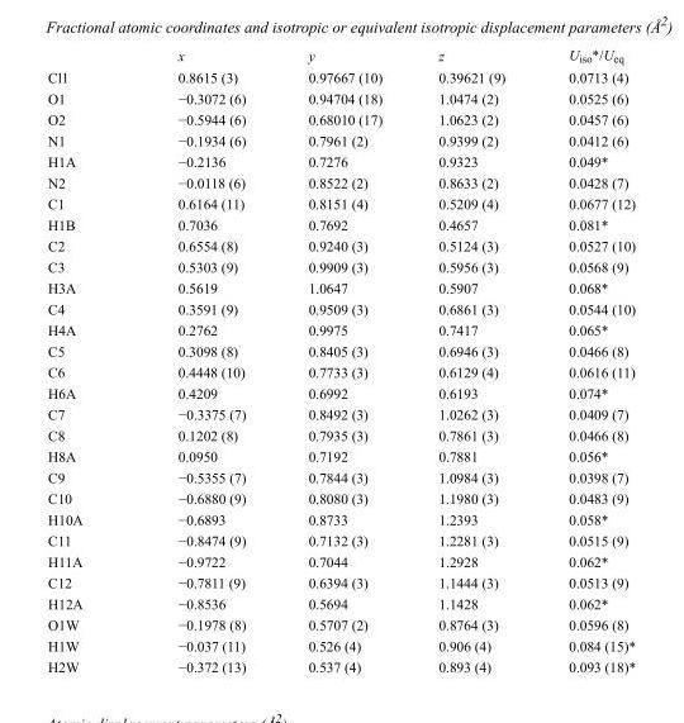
<table><thead><tr><td></td><td>x</td><td>y</td><td>z</td><td>U<sub>iso</sub>*/U<sub>eq</sub></td></tr></thead><tbody><tr><td>Cl1</td><td>0.8615 (3)</td><td>0.97667 (10)</td><td>0.39621 (9)</td><td>0.0713 (4)</td></tr><tr><td>O1</td><td>−0.3072 (6)</td><td>0.94704 (18)</td><td>1.0474 (2)</td><td>0.0525 (6)</td></tr><tr><td>O2</td><td>−0.5944 (6)</td><td>0.68010 (17)</td><td>1.0623 (2)</td><td>0.0457 (6)</td></tr><tr><td>N1</td><td>−0.1934 (6)</td><td>0.7961 (2)</td><td>0.9399 (2)</td><td>0.0412 (6)</td></tr><tr><td>H1A</td><td>−0.2136</td><td>0.7276</td><td>0.9323</td><td>0.049*</td></tr><tr><td>N2</td><td>−0.0118 (6)</td><td>0.8522 (2)</td><td>0.8633 (2)</td><td>0.0428 (7)</td></tr><tr><td>C1</td><td>0.6164 (11)</td><td>0.8151 (4)</td><td>0.5209 (4)</td><td>0.0677 (12)</td></tr><tr><td>H1B</td><td>0.7036</td><td>0.7692</td><td>0.4657</td><td>0.081*</td></tr><tr><td>C2</td><td>0.6554 (8)</td><td>0.9240 (3)</td><td>0.5124 (3)</td><td>0.0527 (10)</td></tr><tr><td>C3</td><td>0.5303 (9)</td><td>0.9909 (3)</td><td>0.5956 (3)</td><td>0.0568 (9)</td></tr><tr><td>H3A</td><td>0.5619</td><td>1.0647</td><td>0.5907</td><td>0.068*</td></tr><tr><td>C4</td><td>0.3591 (9)</td><td>0.9509 (3)</td><td>0.6861 (3)</td><td>0.0544 (10)</td></tr><tr><td>H4A</td><td>0.2762</td><td>0.9975</td><td>0.7417</td><td>0.065*</td></tr><tr><td>C5</td><td>0.3098 (8)</td><td>0.8405 (3)</td><td>0.6946 (3)</td><td>0.0466 (8)</td></tr><tr><td>C6</td><td>0.4448 (10)</td><td>0.7733 (3)</td><td>0.6129 (4)</td><td>0.0616 (11)</td></tr><tr><td>H6A</td><td>0.4209</td><td>0.6992</td><td>0.6193</td><td>0.074*</td></tr><tr><td>C7</td><td>−0.3375 (7)</td><td>0.8492 (3)</td><td>1.0262 (3)</td><td>0.0409 (7)</td></tr><tr><td>C8</td><td>0.1202 (8)</td><td>0.7935 (3)</td><td>0.7861 (3)</td><td>0.0466 (8)</td></tr><tr><td>H8A</td><td>0.0950</td><td>0.7192</td><td>0.7881</td><td>0.056*</td></tr><tr><td>C9</td><td>−0.5355 (7)</td><td>0.7844 (3)</td><td>1.0984 (3)</td><td>0.0398 (7)</td></tr><tr><td>C10</td><td>−0.6880 (9)</td><td>0.8080 (3)</td><td>1.1980 (3)</td><td>0.0483 (9)</td></tr><tr><td>H10A</td><td>−0.6893</td><td>0.8733</td><td>1.2393</td><td>0.058*</td></tr><tr><td>C11</td><td>−0.8474 (9)</td><td>0.7132 (3)</td><td>1.2281 (3)</td><td>0.0515 (9)</td></tr><tr><td>H11A</td><td>−0.9722</td><td>0.7044</td><td>1.2928</td><td>0.062*</td></tr><tr><td>C12</td><td>−0.7811 (9)</td><td>0.6394 (3)</td><td>1.1444 (3)</td><td>0.0513 (9)</td></tr><tr><td>H12A</td><td>−0.8536</td><td>0.5694</td><td>1.1428</td><td>0.062*</td></tr><tr><td>O1W</td><td>−0.1978 (8)</td><td>0.5707 (2)</td><td>0.8764 (3)</td><td>0.0596 (8)</td></tr><tr><td>H1W</td><td>−0.037 (11)</td><td>0.526 (4)</td><td>0.906 (4)</td><td>0.084 (15)*</td></tr><tr><td>H2W</td><td>−0.372 (13)</td><td>0.537 (4)</td><td>0.893 (4)</td><td>0.093 (18)*</td></tr></tbody></table>